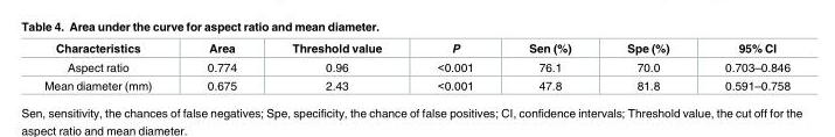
<table><thead><tr><td>Characteristics</td><td>Area</td><td>Threshold value</td><td>P</td><td>Sen (%)</td><td>Spe (%)</td><td>95% CI</td></tr></thead><tbody><tr><td>Aspect ratio</td><td>0.774</td><td>0.96</td><td>&lt;0.001</td><td>76.1</td><td>70.0</td><td>0.703–0.846</td></tr><tr><td>Mean diameter (mm)</td><td>0.675</td><td>2.43</td><td>&lt;0.001</td><td>47.8</td><td>81.8</td><td>0.591–0.758</td></tr></tbody></table>